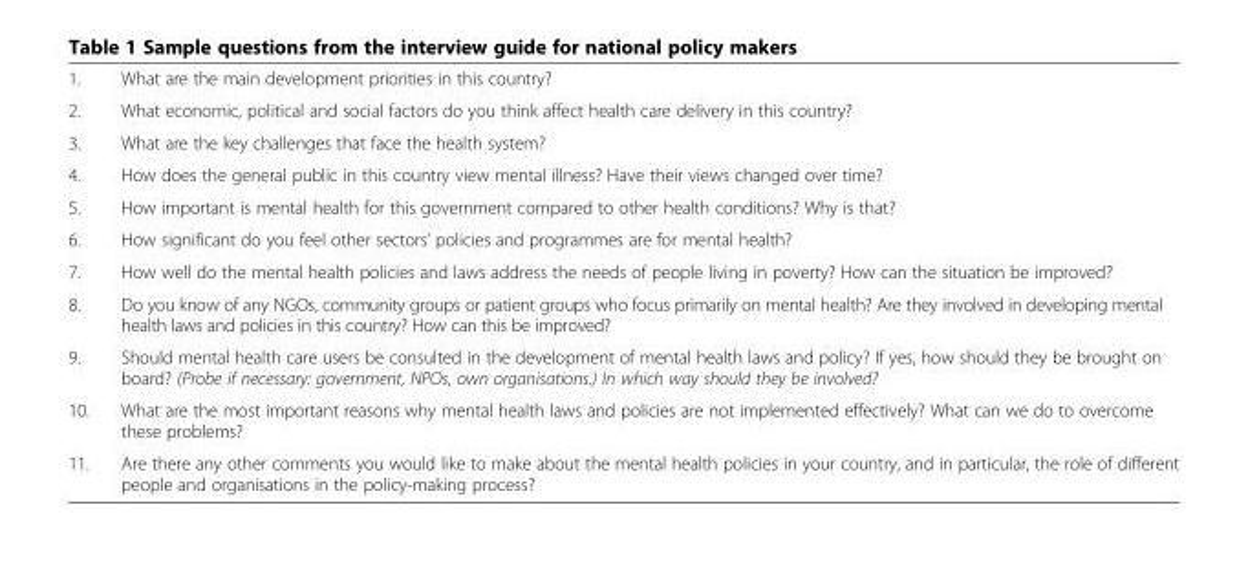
<table><tbody><tr><td>1.</td><td>What are the main development priorities in this country?</td></tr><tr><td>2.</td><td>What economic, political and social factors do you think affect health care delivery in this country?</td></tr><tr><td>3.</td><td>What are the key challenges that face the health system?</td></tr><tr><td>4.</td><td>How does the general public in this country view mental illness? Have their views changed over time?</td></tr><tr><td>5.</td><td>How important is mental health for this government compared to other health conditions? Why is that?</td></tr><tr><td>6.</td><td>How significant do you feel other sectors’ policies and programmes are for mental health?</td></tr><tr><td>7.</td><td>How well do the mental health policies and laws address the needs of people living in poverty? How can the situation be improved?</td></tr><tr><td>8.</td><td>Do you know of any NGOs, community groups or patient groups who focus primarily on mental health? Are they involved in developing mental health laws and policies in this country? How can this be improved?</td></tr><tr><td>9.</td><td>Should mental health care users be consulted in the development of mental health laws and policy? If yes, how should they be brought on board? (Probe if necessary: government, NPOs, own organisations.) In which way should they be involved?</td></tr><tr><td>10.</td><td>What are the most important reasons why mental health laws and policies are not implemented effectively? What can we do to overcome these problems?</td></tr><tr><td>11.</td><td>Are there any other comments you would like to make about the mental health policies in your country, and in particular, the role of different people and organisations in the policy-making process?</td></tr></tbody></table>